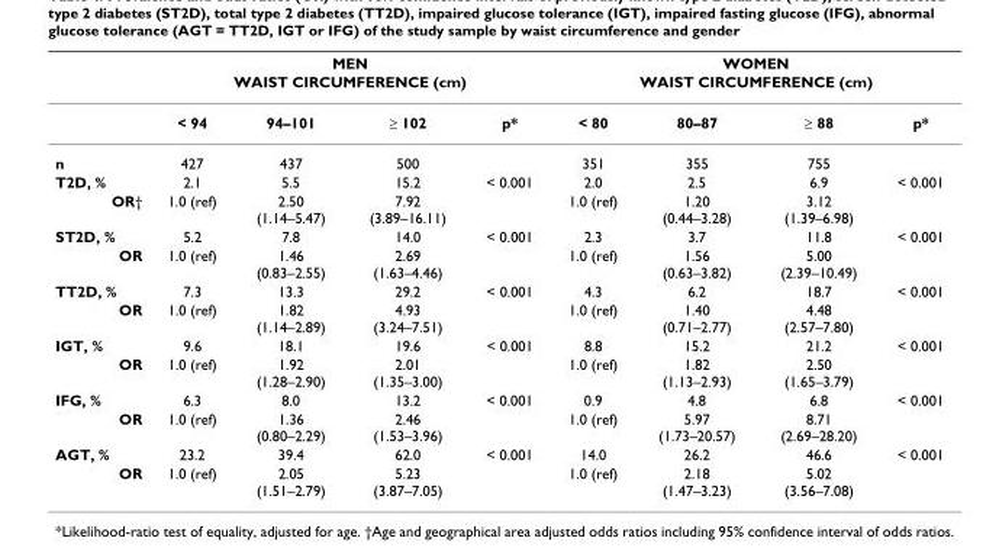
<table><thead><tr><td rowspan="3"></td><td rowspan="2" colspan="4">MEN WAIST CIRCUMFERENCE (cm)</td><td rowspan="2" colspan="4">WOMEN WAIST CIRCUMFERENCE (cm)</td></tr><tr></tr><tr><td>&lt; 94</td><td>94–101</td><td>≥ 102</td><td>p*</td><td>&lt; 80</td><td>80–87</td><td>≥ 88</td><td>p*</td></tr></thead><tbody><tr><td>n</td><td>427</td><td>437</td><td>500</td><td></td><td>351</td><td>355</td><td>755</td><td></td></tr><tr><td>T2D, %</td><td>2.1</td><td>5.5</td><td>15.2</td><td>&lt; 0.001</td><td>2.0</td><td>2.5</td><td>6.9</td><td>&lt; 0.001</td></tr><tr><td>OR†</td><td>1.0 (ref)</td><td>2.50 (1.14–5.47)</td><td>7.92 (3.89–16.11)</td><td></td><td>1.0 (ref)</td><td>1.20 (0.44–3.28)</td><td>3.12 (1.39–6.98)</td><td></td></tr><tr><td>ST2D, %</td><td>5.2</td><td>7.8</td><td>14.0</td><td>&lt; 0.001</td><td>2.3</td><td>3.7</td><td>11.8</td><td>&lt; 0.001</td></tr><tr><td>OR</td><td>1.0 (ref)</td><td>1.46 (0.83–2.55)</td><td>2.69 (1.63–4.46)</td><td></td><td>1.0 (ref)</td><td>1.56 (0.63–3.82)</td><td>5.00 (2.39–10.49)</td><td></td></tr><tr><td>TT2D, %</td><td>7.3</td><td>13.3</td><td>29.2</td><td>&lt; 0.001</td><td>4.3</td><td>6.2</td><td>18.7</td><td>&lt; 0.001</td></tr><tr><td>OR</td><td>1.0 (ref)</td><td>1.82 (1.14–2.89)</td><td>4.93 (3.24–7.51)</td><td></td><td>1.0 (ref)</td><td>1.40 (0.71–2.77)</td><td>4.48 (2.57–7.80)</td><td></td></tr><tr><td>IGT, %</td><td>9.6</td><td>18.1</td><td>19.6</td><td>&lt; 0.001</td><td>8.8</td><td>15.2</td><td>21.2</td><td>&lt; 0.001</td></tr><tr><td>OR</td><td>1.0 (ref)</td><td>1.92 (1.28–2.90)</td><td>2.01 (1.35–3.00)</td><td></td><td>1.0 (ref)</td><td>1.82 (1.13–2.93)</td><td>2.50 (1.65–3.79)</td><td></td></tr><tr><td>IFG, %</td><td>6.3</td><td>8.0</td><td>13.2</td><td>&lt; 0.001</td><td>0.9</td><td>4.8</td><td>6.8</td><td>&lt; 0.001</td></tr><tr><td>OR</td><td>1.0 (ref)</td><td>1.36 (0.80–2.29)</td><td>2.46 (1.53–3.96)</td><td></td><td>1.0 (ref)</td><td>5.97 (1.73–20.57)</td><td>8.71 (2.69–28.20)</td><td></td></tr><tr><td>AGT, %</td><td>23.2</td><td>39.4</td><td>62.0</td><td>&lt; 0.001</td><td>14.0</td><td>26.2</td><td>46.6</td><td>&lt; 0.001</td></tr><tr><td>OR</td><td>1.0 (ref)</td><td>2.05 (1.51–2.79)</td><td>5.23 (3.87–7.05)</td><td></td><td>1.0 (ref)</td><td>2.18 (1.47–3.23)</td><td>5.02 (3.56–7.08)</td><td></td></tr></tbody></table>